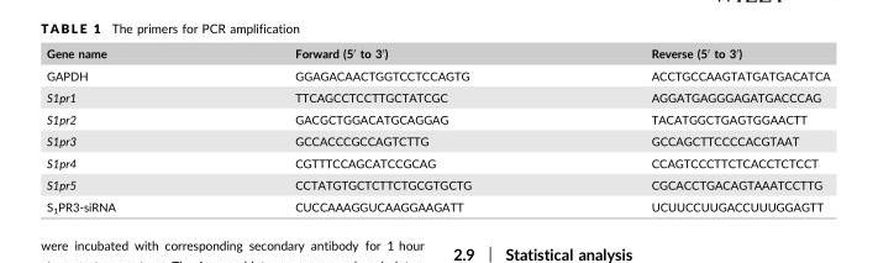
<table><thead><tr><td>Gene name</td><td>Forward (5′ to 3′)</td><td>Reverse (5′ to 3′)</td></tr></thead><tbody><tr><td>GAPDH</td><td>GGAGACAACTGGTCCTCCAGTG</td><td>ACCTGCCAAGTATGATGACATCA</td></tr><tr><td>S1pr1</td><td>TTCAGCCTCCTTGCTATCGC</td><td>AGGATGAGGGAGATGACCCAG</td></tr><tr><td>S1pr2</td><td>GACGCTGGACATGCAGGAG</td><td>TACATGGCTGAGTGGAACTT</td></tr><tr><td>S1pr3</td><td>GCCACCCGCCAGTCTTG</td><td>GCCAGCTTCCCCACGTAAT</td></tr><tr><td>S1pr4</td><td>CGTTTCCAGCATCCGCAG</td><td>CCAGTCCCTTCTCACCTCTCCT</td></tr><tr><td>S1pr5</td><td>CCTATGTGCTCTTCTGCGTGCTG</td><td>CGCACCTGACAGTAAATCCTTG</td></tr><tr><td>S<sub>1</sub>PR3-siRNA</td><td>CUCCAAAGGUCAAGGAAGATT</td><td>UCUUCCUUGACCUUUGGAGTT</td></tr></tbody></table>